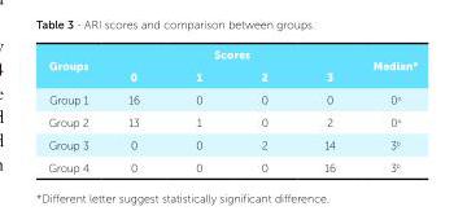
<table><thead><tr><td rowspan="2">Groups</td><td colspan="4">Scores</td><td rowspan="2">Median*</td></tr><tr><td>0</td><td>1</td><td>2</td><td>3</td></tr></thead><tbody><tr><td>Group 1</td><td>16</td><td>0</td><td>0</td><td>0</td><td>0<sup>a</sup></td></tr><tr><td>Group 2</td><td>13</td><td>1</td><td>0</td><td>2</td><td>0<sup>a</sup></td></tr><tr><td>Group 3</td><td>0</td><td>0</td><td>2</td><td>14</td><td>3<sup>b</sup></td></tr><tr><td>Group 4</td><td>0</td><td>0</td><td>0</td><td>16</td><td>3<sup>b</sup></td></tr></tbody></table>